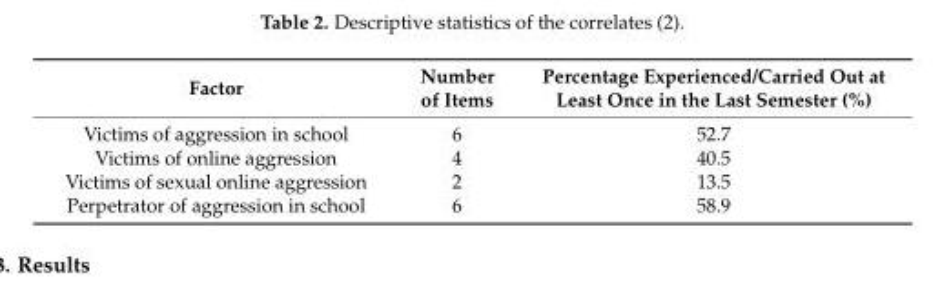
<table><thead><tr><td>Factor</td><td>Number of Items</td><td>Percentage Experienced/Carried Out at Least Once in the Last Semester (%)</td></tr></thead><tbody><tr><td>Victims of aggression in school</td><td>6</td><td>52.7</td></tr><tr><td>Victims of online aggression</td><td>4</td><td>40.5</td></tr><tr><td>Victims of sexual online aggression</td><td>2</td><td>13.5</td></tr><tr><td>Perpetrator of aggression in school</td><td>6</td><td>58.9</td></tr></tbody></table>